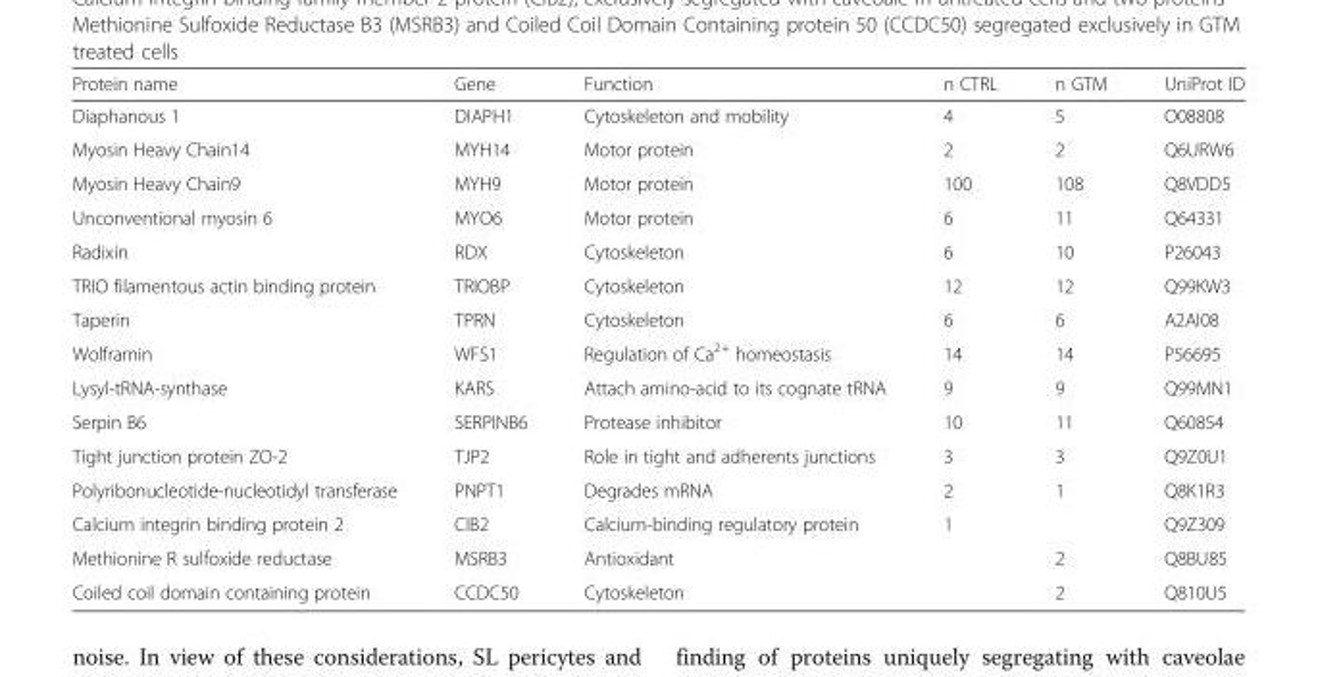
<table><thead><tr><td>Protein name</td><td>Gene</td><td>Function</td><td>n CTRL</td><td>n GTM</td><td>UniProt ID</td></tr></thead><tbody><tr><td>Diaphanous 1</td><td>DIAPH1</td><td>Cytoskeleton and mobility</td><td>4</td><td>5</td><td>O08808</td></tr><tr><td>Myosin Heavy Chain14</td><td>MYH14</td><td>Motor protein</td><td>2</td><td>2</td><td>Q6URW6</td></tr><tr><td>Myosin Heavy Chain9</td><td>MYH9</td><td>Motor protein</td><td>100</td><td>108</td><td>Q8VDD5</td></tr><tr><td>Unconventional myosin 6</td><td>MYO6</td><td>Motor protein</td><td>6</td><td>11</td><td>Q64331</td></tr><tr><td>Radixin</td><td>RDX</td><td>Cytoskeleton</td><td>6</td><td>10</td><td>P26043</td></tr><tr><td>TRIO filamentous actin binding protein</td><td>TRIOBP</td><td>Cytoskeleton</td><td>12</td><td>12</td><td>Q99KW3</td></tr><tr><td>Taperin</td><td>TPRN</td><td>Cytoskeleton</td><td>6</td><td>6</td><td>A2AI08</td></tr><tr><td>Wolframin</td><td>WFS1</td><td>Regulation of Ca<sup>2+</sup> homeostasis</td><td>14</td><td>14</td><td>P56695</td></tr><tr><td>Lysyl-tRNA-synthase</td><td>KARS</td><td>Attach amino-acid to its cognate tRNA</td><td>9</td><td>9</td><td>Q99MN1</td></tr><tr><td>Serpin B6</td><td>SERPINB6</td><td>Protease inhibitor</td><td>10</td><td>11</td><td>Q60854</td></tr><tr><td>Tight junction protein ZO-2</td><td>TJP2</td><td>Role in tight and adherents junctions</td><td>3</td><td>3</td><td>Q9Z0U1</td></tr><tr><td>Polyribonucleotide-nucleotidyl transferase</td><td>PNPT1</td><td>Degrades mRNA</td><td>2</td><td>1</td><td>Q8K1R3</td></tr><tr><td>Calcium integrin binding protein 2</td><td>CIB2</td><td>Calcium-binding regulatory protein</td><td>1</td><td></td><td>Q9Z309</td></tr><tr><td>Methionine R sulfoxide reductase</td><td>MSRB3</td><td>Antioxidant</td><td></td><td>2</td><td>Q8BU85</td></tr><tr><td>Coiled coil domain containing protein</td><td>CCDC50</td><td>Cytoskeleton</td><td></td><td>2</td><td>Q810U5</td></tr></tbody></table>